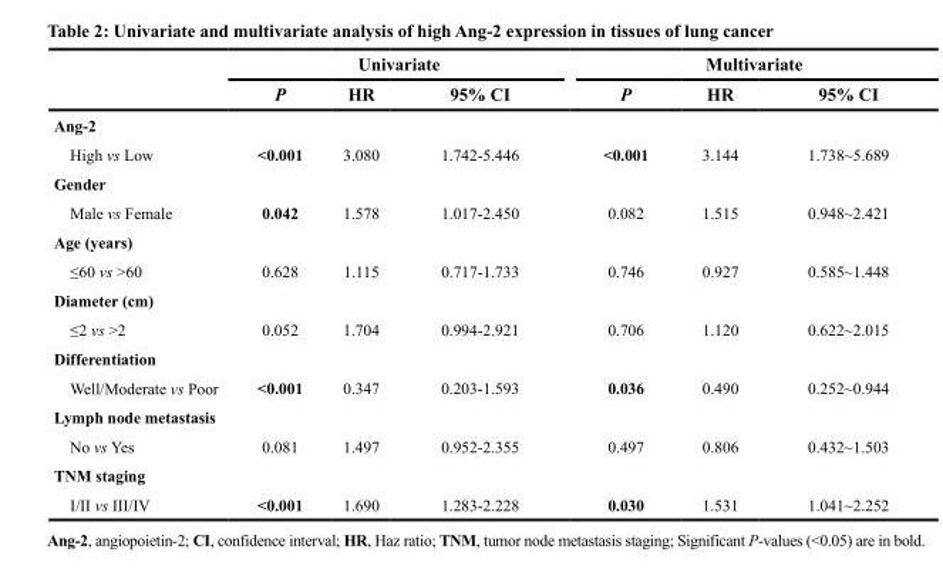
<table><thead><tr><td rowspan="2"></td><td colspan="3">Univariate</td><td colspan="3">Multivariate</td></tr><tr><td>P</td><td>HR</td><td>95% CI</td><td>P</td><td>HR</td><td>95% CI</td></tr></thead><tbody><tr><td colspan="7">Ang-2</td></tr><tr><td>High vs Low</td><td>&lt;0.001</td><td>3.080</td><td>1.742-5.446</td><td>&lt;0.001</td><td>3.144</td><td>1.738~5.689</td></tr><tr><td colspan="7">Gender</td></tr><tr><td>Male vs Female</td><td>0.042</td><td>1.578</td><td>1.017-2.450</td><td>0.082</td><td>1.515</td><td>0.948~2.421</td></tr><tr><td colspan="7">Age (years)</td></tr><tr><td>≤60 vs &gt;60</td><td>0.628</td><td>1.115</td><td>0.717-1.733</td><td>0.746</td><td>0.927</td><td>0.585~1.448</td></tr><tr><td colspan="7">Diameter (cm)</td></tr><tr><td>≤2 vs &gt;2</td><td>0.052</td><td>1.704</td><td>0.994-2.921</td><td>0.706</td><td>1.120</td><td>0.622~2.015</td></tr><tr><td colspan="7">Differentiation</td></tr><tr><td>Well/Moderate vs Poor</td><td>&lt;0.001</td><td>0.347</td><td>0.203-1.593</td><td>0.036</td><td>0.490</td><td>0.252~0.944</td></tr><tr><td colspan="7">Lymph node metastasis</td></tr><tr><td>No vs Yes</td><td>0.081</td><td>1.497</td><td>0.952-2.355</td><td>0.497</td><td>0.806</td><td>0.432~1.503</td></tr><tr><td colspan="7">TNM staging</td></tr><tr><td>I/II vs III/IV</td><td>&lt;0.001</td><td>1.690</td><td>1.283-2.228</td><td>0.030</td><td>1.531</td><td>1.041~2.252</td></tr></tbody></table>